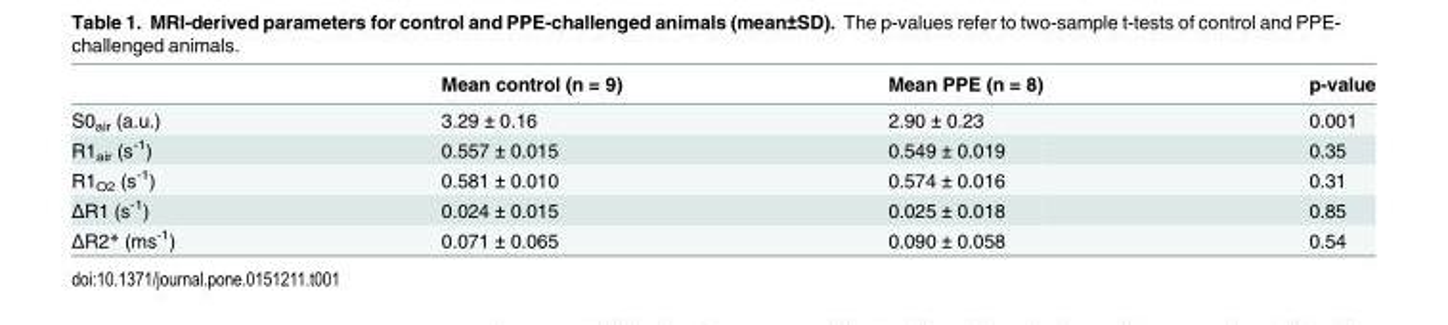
<table><thead><tr><td></td><td>Mean control (n = 9)</td><td>Mean PPE (n = 8)</td><td>p-value</td></tr></thead><tbody><tr><td>S0<sub>air</sub> (a.u.)</td><td>3.29 ± 0.16</td><td>2.90 ± 0.23</td><td>0.001</td></tr><tr><td>R1<sub>air</sub> (s<sup>-1</sup>)</td><td>0.557 ± 0.015</td><td>0.549 ± 0.019</td><td>0.35</td></tr><tr><td>R1<sub>O2</sub> (s<sup>-1</sup>)</td><td>0.581 ± 0.010</td><td>0.574 ± 0.016</td><td>0.31</td></tr><tr><td>ΔR1 (s<sup>-1</sup>)</td><td>0.024 ± 0.015</td><td>0.025 ± 0.018</td><td>0.85</td></tr><tr><td>ΔR2* (ms<sup>-1</sup>)</td><td>0.071 ± 0.065</td><td>0.090 ± 0.058</td><td>0.54</td></tr></tbody></table>